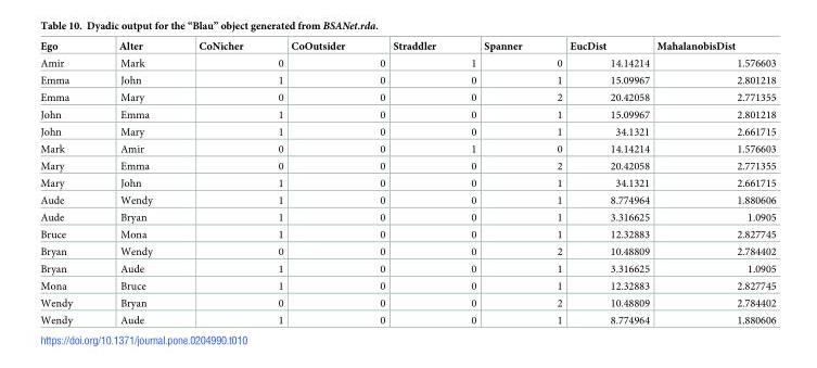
<table><thead><tr><td>Ego</td><td>Alter</td><td>CoNicher</td><td>CoOutsider</td><td>Straddler</td><td>Spanner</td><td>EucDist</td><td>MahalanobisDist</td></tr></thead><tbody><tr><td>Amir</td><td>Mark</td><td>0</td><td>0</td><td>1</td><td>0</td><td>14.14214</td><td>1.576603</td></tr><tr><td>Emma</td><td>John</td><td>1</td><td>0</td><td>0</td><td>1</td><td>15.09967</td><td>2.801218</td></tr><tr><td>Emma</td><td>Mary</td><td>0</td><td>0</td><td>0</td><td>2</td><td>20.42058</td><td>2.771355</td></tr><tr><td>John</td><td>Emma</td><td>1</td><td>0</td><td>0</td><td>1</td><td>15.09967</td><td>2.801218</td></tr><tr><td>John</td><td>Mary</td><td>1</td><td>0</td><td>0</td><td>1</td><td>34.1321</td><td>2.661715</td></tr><tr><td>Mark</td><td>Amir</td><td>0</td><td>0</td><td>1</td><td>0</td><td>14.14214</td><td>1.576603</td></tr><tr><td>Mary</td><td>Emma</td><td>0</td><td>0</td><td>0</td><td>2</td><td>20.42058</td><td>2.771355</td></tr><tr><td>Mary</td><td>John</td><td>1</td><td>0</td><td>0</td><td>1</td><td>34.1321</td><td>2.661715</td></tr><tr><td>Aude</td><td>Wendy</td><td>1</td><td>0</td><td>0</td><td>1</td><td>8.774964</td><td>1.880606</td></tr><tr><td>Aude</td><td>Bryan</td><td>1</td><td>0</td><td>0</td><td>1</td><td>3.316625</td><td>1.0905</td></tr><tr><td>Bruce</td><td>Mona</td><td>1</td><td>0</td><td>0</td><td>1</td><td>12.32883</td><td>2.827745</td></tr><tr><td>Bryan</td><td>Wendy</td><td>0</td><td>0</td><td>0</td><td>2</td><td>10.48809</td><td>2.784402</td></tr><tr><td>Bryan</td><td>Aude</td><td>1</td><td>0</td><td>0</td><td>1</td><td>3.316625</td><td>1.0905</td></tr><tr><td>Mona</td><td>Bruce</td><td>1</td><td>0</td><td>0</td><td>1</td><td>12.32883</td><td>2.827745</td></tr><tr><td>Wendy</td><td>Bryan</td><td>0</td><td>0</td><td>0</td><td>2</td><td>10.48809</td><td>2.784402</td></tr><tr><td>Wendy</td><td>Aude</td><td>1</td><td>0</td><td>0</td><td>1</td><td>8.774964</td><td>1.880606</td></tr></tbody></table>